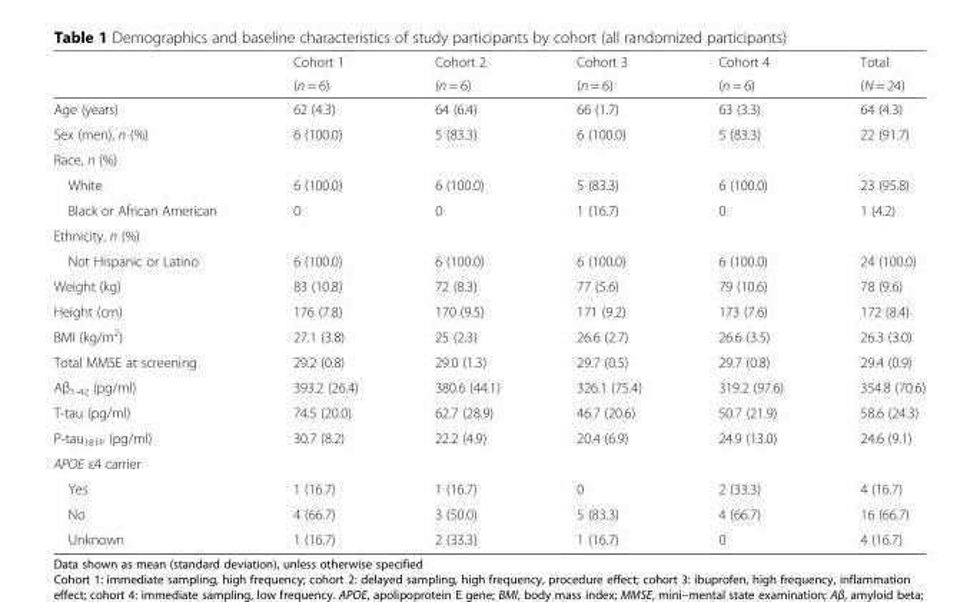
<table><thead><tr><td rowspan="2"></td><td rowspan="2">Cohort 1 (n = 6)</td><td rowspan="2">Cohort 2 (n = 6)</td><td rowspan="2">Cohort 3 (n = 6)</td><td rowspan="2">Cohort 4 (n = 6)</td><td rowspan="2">Total (N = 24)</td></tr><tr></tr></thead><tbody><tr><td>Age (years)</td><td>62 (4.3)</td><td>64 (6.4)</td><td>66 (1.7)</td><td>63 (3.3)</td><td>64 (4.3)</td></tr><tr><td>Sex (men), n (%)</td><td>6 (100.0)</td><td>5 (83.3)</td><td>6 (100.0)</td><td>5 (83.3)</td><td>22 (91.7)</td></tr><tr><td colspan="6">Race, n (%)</td></tr><tr><td>White</td><td>6 (100.0)</td><td>6 (100.0)</td><td>5 (83.3)</td><td>6 (100.0)</td><td>23 (95.8)</td></tr><tr><td>Black or African American</td><td>0</td><td>0</td><td>1 (16.7)</td><td>0</td><td>1 (4.2)</td></tr><tr><td colspan="6">Ethnicity, n (%)</td></tr><tr><td>Not Hispanic or Latino</td><td>6 (100.0)</td><td>6 (100.0)</td><td>6 (100.0)</td><td>6 (100.0)</td><td>24 (100.0)</td></tr><tr><td>Weight (kg)</td><td>83 (10.8)</td><td>72 (8.3)</td><td>77 (5.6)</td><td>79 (10.6)</td><td>78 (9.6)</td></tr><tr><td>Height (cm)</td><td>176 (7.8)</td><td>170 (9.5)</td><td>171 (9.2)</td><td>173 (7.6)</td><td>172 (8.4)</td></tr><tr><td>BMI (kg/m<sup>2</sup>)</td><td>27.1 (3.8)</td><td>25 (2.3)</td><td>26.6 (2.7)</td><td>26.6 (3.5)</td><td>26.3 (3.0)</td></tr><tr><td>Total MMSE at screening</td><td>29.2 (0.8)</td><td>29.0 (1.3)</td><td>29.7 (0.5)</td><td>29.7 (0.8)</td><td>29.4 (0.9)</td></tr><tr><td>Aβ<sub>1-42</sub> (pg/ml)</td><td>393.2 (26.4)</td><td>380.6 (44.1)</td><td>326.1 (75.4)</td><td>319.2 (97.6)</td><td>354.8 (70.6)</td></tr><tr><td>T-tau (pg/ml)</td><td>74.5 (20.0)</td><td>62.7 (28.9)</td><td>46.7 (20.6)</td><td>50.7 (21.9)</td><td>58.6 (24.3)</td></tr><tr><td>P-tau<sub>181P</sub> (pg/ml)</td><td>30.7 (8.2)</td><td>22.2 (4.9)</td><td>20.4 (6.9)</td><td>24.9 (13.0)</td><td>24.6 (9.1)</td></tr><tr><td colspan="6">APOE ε4 carrier</td></tr><tr><td>Yes</td><td>1 (16.7)</td><td>1 (16.7)</td><td>0</td><td>2 (33.3)</td><td>4 (16.7)</td></tr><tr><td>No</td><td>4 (66.7)</td><td>3 (50.0)</td><td>5 (83.3)</td><td>4 (66.7)</td><td>16 (66.7)</td></tr><tr><td>Unknown</td><td>1 (16.7)</td><td>2 (33.3)</td><td>1 (16.7)</td><td>0</td><td>4 (16.7)</td></tr></tbody></table>